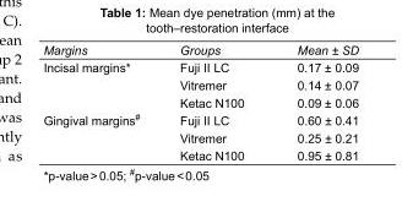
<table><tbody><tr><td>Margins</td><td>Groups</td><td>Mean ± SD</td></tr><tr><td rowspan="3">Incisal margins*</td><td>Fuji II LC</td><td>0.17 ± 0.09</td></tr><tr><td>Vitremer</td><td>0.14 ± 0.07</td></tr><tr><td>Ketac N100</td><td>0.09 ± 0.06</td></tr><tr><td rowspan="3">Gingival margins#</td><td>Fuji II LC</td><td>0.60 ± 0.41</td></tr><tr><td>Vitremer</td><td>0.25 ± 0.21</td></tr><tr><td>Ketac N100</td><td>0.95 ± 0.81</td></tr></tbody></table>